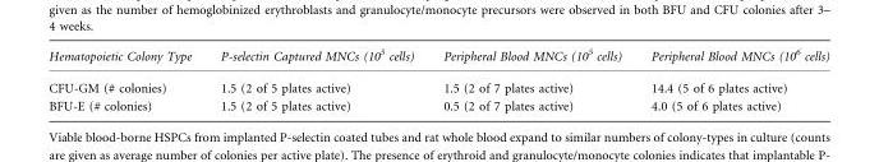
<table><thead><tr><td>Hematopoietic Colony Type</td><td>P-selectin Captured MNCs (10<sup>5</sup> cells)</td><td>Peripheral Blood MNCs (10<sup>5</sup> cells)</td><td>Peripheral Blood MNCs (10<sup>6</sup> cells)</td></tr></thead><tbody><tr><td>CFU-GM (# colonies)</td><td>1.5 (2 of 5 plates active)</td><td>1.5 (2 of 7 plates active)</td><td>14.4 (5 of 6 plates active)</td></tr><tr><td>BFU-E (# colonies)</td><td>1.5 (2 of 5 plates active)</td><td>0.5 (2 of 7 plates active)</td><td>4.0 (5 of 6 plates active)</td></tr></tbody></table>